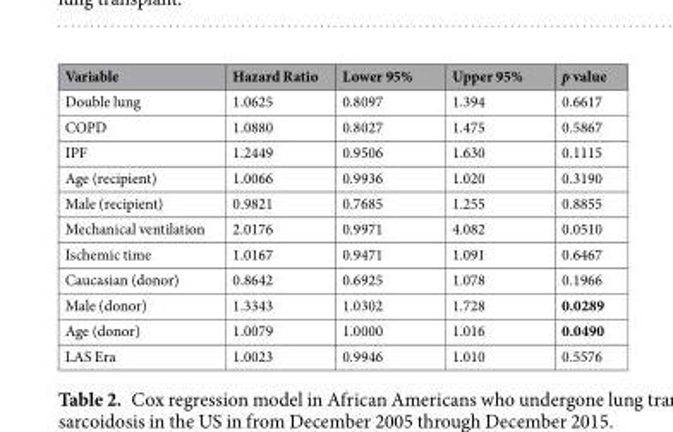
<table><thead><tr><td>Variable</td><td>Hazard Ratio</td><td>Lower 95%</td><td>Upper 95%</td><td>p value</td></tr></thead><tbody><tr><td>Double lung</td><td>1.0625</td><td>0.8097</td><td>1.394</td><td>0.6617</td></tr><tr><td>COPD</td><td>1.0880</td><td>0.8027</td><td>1.475</td><td>0.5867</td></tr><tr><td>IPF</td><td>1.2449</td><td>0.9506</td><td>1.630</td><td>0.1115</td></tr><tr><td>Age (recipient)</td><td>1.0066</td><td>0.9936</td><td>1.020</td><td>0.3190</td></tr><tr><td>Male (recipient)</td><td>0.9821</td><td>0.7685</td><td>1.255</td><td>0.8855</td></tr><tr><td>Mechanical ventilation</td><td>2.0176</td><td>0.9971</td><td>4.082</td><td>0.0510</td></tr><tr><td>Ischemic time</td><td>1.0167</td><td>0.9471</td><td>1.091</td><td>0.6467</td></tr><tr><td>Caucasian (donor)</td><td>0.8642</td><td>0.6925</td><td>1.078</td><td>0.1966</td></tr><tr><td>Male (donor)</td><td>1.3343</td><td>1.0302</td><td>1.728</td><td>0.0289</td></tr><tr><td>Age (donor)</td><td>1.0079</td><td>1.0000</td><td>1.016</td><td>0.0490</td></tr><tr><td>LAS Era</td><td>1.0023</td><td>0.9946</td><td>1.010</td><td>0.5576</td></tr></tbody></table>